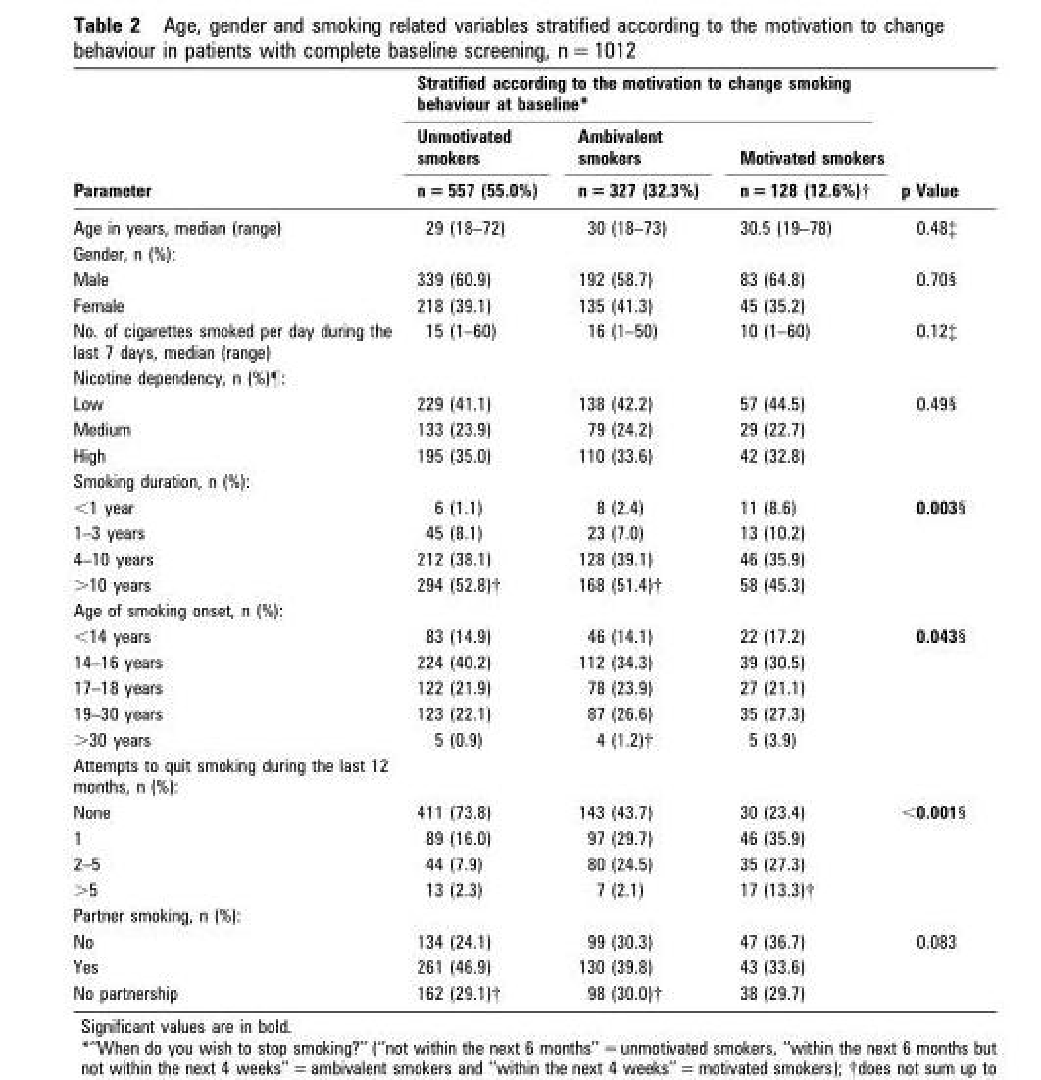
<table><thead><tr><td rowspan="3">Parameter</td><td colspan="3">Stratified according to the motivation to change smoking behaviour at baseline*</td><td rowspan="3">p Value</td></tr><tr><td rowspan="2">Unmotivated smokers n = 557 (55.0%)</td><td rowspan="2">Ambivalent smokers n = 327 (32.3%)</td><td rowspan="2">Motivated smokers n = 128 (12.6%)†</td></tr><tr></tr></thead><tbody><tr><td>Age in years, median (range)</td><td>29 (18–72)</td><td>30 (18–73)</td><td>30.5 (19–78)</td><td>0.48‡</td></tr><tr><td colspan="5">Gender, n (%):</td></tr><tr><td>Male</td><td>339 (60.9)</td><td>192 (58.7)</td><td>83 (64.8)</td><td>0.70§</td></tr><tr><td>Female</td><td>218 (39.1)</td><td>135 (41.3)</td><td>45 (35.2)</td><td></td></tr><tr><td>No. of cigarettes smoked per day during the last 7 days, median (range)</td><td>15 (1–60)</td><td>16 (1–50)</td><td>10 (1–60)</td><td>0.12‡</td></tr><tr><td colspan="5">Nicotine dependency, n (%)¶:</td></tr><tr><td>Low</td><td>229 (41.1)</td><td>138 (42.2)</td><td>57 (44.5)</td><td>0.49§</td></tr><tr><td>Medium</td><td>133 (23.9)</td><td>79 (24.2)</td><td>29 (22.7)</td><td></td></tr><tr><td>High</td><td>195 (35.0)</td><td>110 (33.6)</td><td>42 (32.8)</td><td></td></tr><tr><td colspan="5">Smoking duration, n (%):</td></tr><tr><td>&lt;1 year</td><td>6 (1.1)</td><td>8 (2.4)</td><td>11 (8.6)</td><td>0.003§</td></tr><tr><td>1–3 years</td><td>45 (8.1)</td><td>23 (7.0)</td><td>13 (10.2)</td><td></td></tr><tr><td>4–10 years</td><td>212 (38.1)</td><td>128 (39.1)</td><td>46 (35.9)</td><td></td></tr><tr><td>&gt;10 years</td><td>294 (52.8)†</td><td>168 (51.4)†</td><td>58 (45.3)</td><td></td></tr><tr><td colspan="5">Age of smoking onset, n (%):</td></tr><tr><td>&lt;14 years</td><td>83 (14.9)</td><td>46 (14.1)</td><td>22 (17.2)</td><td>0.043§</td></tr><tr><td>14–16 years</td><td>224 (40.2)</td><td>112 (34.3)</td><td>39 (30.5)</td><td></td></tr><tr><td>17–18 years</td><td>122 (21.9)</td><td>78 (23.9)</td><td>27 (21.1)</td><td></td></tr><tr><td>19–30 years</td><td>123 (22.1)</td><td>87 (26.6)</td><td>35 (27.3)</td><td></td></tr><tr><td>&gt;30 years</td><td>5 (0.9)</td><td>4 (1.2)†</td><td>5 (3.9)</td><td></td></tr><tr><td colspan="5">Attempts to quit smoking during the last 12 months, n (%):</td></tr><tr><td>None</td><td>411 (73.8)</td><td>143 (43.7)</td><td>30 (23.4)</td><td>&lt;0.001§</td></tr><tr><td>1</td><td>89 (16.0)</td><td>97 (29.7)</td><td>46 (35.9)</td><td></td></tr><tr><td>2–5</td><td>44 (7.9)</td><td>80 (24.5)</td><td>35 (27.3)</td><td></td></tr><tr><td>&gt;5</td><td>13 (2.3)</td><td>7 (2.1)</td><td>17 (13.3)†</td><td></td></tr><tr><td colspan="5">Partner smoking, n (%):</td></tr><tr><td>No</td><td>134 (24.1)</td><td>99 (30.3)</td><td>47 (36.7)</td><td>0.083</td></tr><tr><td>Yes</td><td>261 (46.9)</td><td>130 (39.8)</td><td>43 (33.6)</td><td></td></tr><tr><td>No partnership</td><td>162 (29.1)†</td><td>98 (30.0)†</td><td>38 (29.7)</td><td></td></tr></tbody></table>